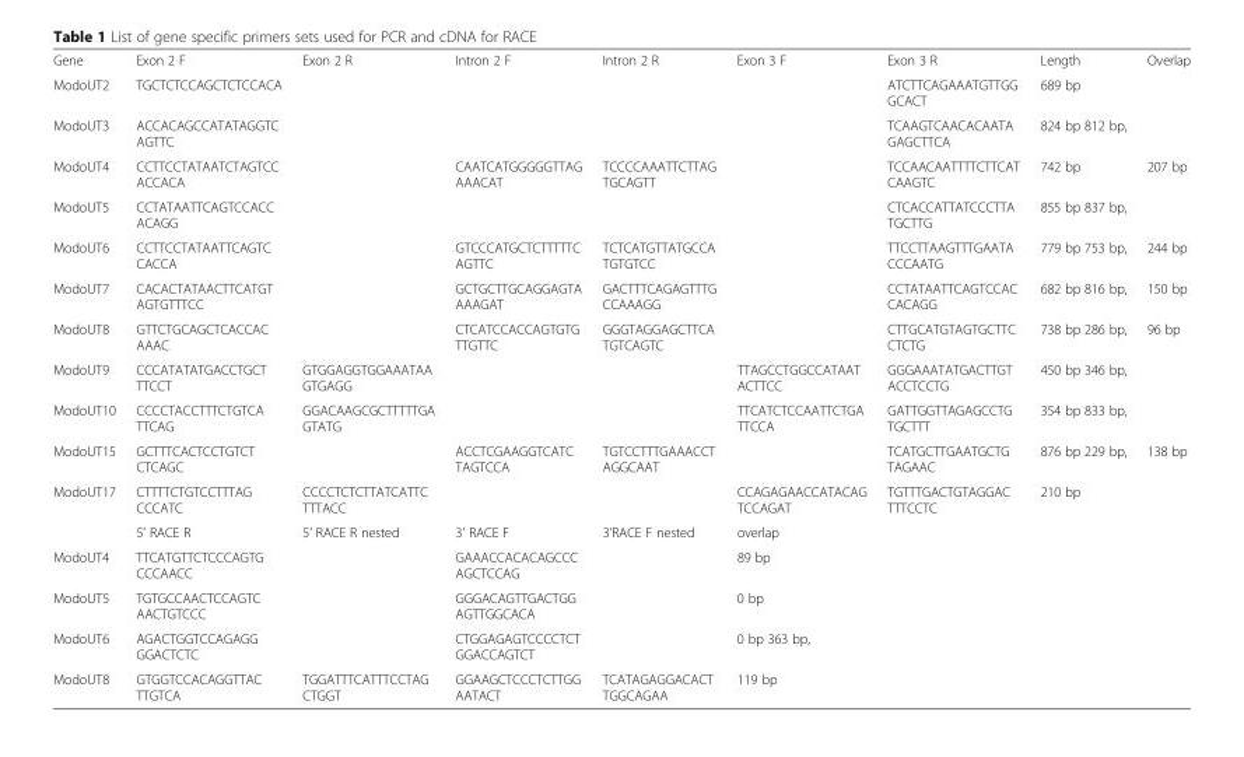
<table><tbody><tr><td>Gene</td><td>Exon 2 F</td><td>Exon 2 R</td><td>Intron 2 F</td><td>Intron 2 R</td><td>Exon 3 F</td><td>Exon 3 R</td><td>Length</td><td>Overlap</td></tr><tr><td>ModoUT2</td><td>TGCTCTCCAGCTCTCCACA</td><td></td><td></td><td></td><td></td><td>ATCTTCAGAAATGTTGG GCACT</td><td>689 bp</td><td></td></tr><tr><td>ModoUT3</td><td>ACCACAGCCATATAGGTC AGTTC</td><td></td><td></td><td></td><td></td><td>TCAAGTCAACACAATA GAGCTTCA</td><td>824 bp 812 bp,</td><td></td></tr><tr><td>ModoUT4</td><td>CCTTCCTATAATCTAGTCC ACCACA</td><td></td><td>CAATCATGGGGGTTAG AAACAT</td><td>TCCCCAAATTCTTAG TGCAGTT</td><td></td><td>TCCAACAATTTTCTTCAT CAAGTC</td><td>742 bp</td><td>207 bp</td></tr><tr><td>ModoUT5</td><td>CCTATAATTCAGTCCACC ACAGG</td><td></td><td></td><td></td><td></td><td>CTCACCATTATCCCTTA TGCTTG</td><td>855 bp 837 bp,</td><td></td></tr><tr><td>ModoUT6</td><td>CCTTCCTATAATTCAGTC CACCA</td><td></td><td>GTCCCATGCTCTTTTTC AGTTC</td><td>TCTCATGTTATGCCA TGTGTCC</td><td></td><td>TTCCTTAAGTTTGAATA CCCAATG</td><td>779 bp 753 bp,</td><td>244 bp</td></tr><tr><td>ModoUT7</td><td>CACACTATAACTTCATGT AGTGTTTCC</td><td></td><td>GCTGCTTGCAGGAGTA AAAGAT</td><td>GACTTTCAGAGTTTG CCAAAGG</td><td></td><td>CCTATAATTCAGTCCAC CACAGG</td><td>682 bp 816 bp,</td><td>150 bp</td></tr><tr><td>ModoUT8</td><td>GTTCTGCAGCTCACCAC AAAC</td><td></td><td>CTCATCCACCAGTGTG TTGTTC</td><td>GGGTAGGAGCTTCA TGTCAGTC</td><td></td><td>CTTGCATGTAGTGCTTC CTCTG</td><td>738 bp 286 bp,</td><td>96 bp</td></tr><tr><td>ModoUT9</td><td>CCCATATATGACCTGCT TTCCT</td><td>GTGGAGGTGGAAATAA GTGAGG</td><td></td><td></td><td>TTAGCCTGGCCATAAT ACTTCC</td><td>GGGAAATATGACTTGT ACCTCCTG</td><td>450 bp 346 bp,</td><td></td></tr><tr><td>ModoUT10</td><td>CCCCTACCTTTCTGTCA TTCAG</td><td>GGACAAGCGCTTTTTGA GTATG</td><td></td><td></td><td>TTCATCTCCAATTCTGA TTCCA</td><td>GATTGGTTAGAGCCTG TGCTTT</td><td>354 bp 833 bp,</td><td></td></tr><tr><td>ModoUT15</td><td>GCTTTCACTCCTGTCT CTCAGC</td><td></td><td>ACCTCGAAGGTCATC TAGTCCA</td><td>TGTCCTTTGAAACCT AGGCAAT</td><td></td><td>TCATGCTTGAATGCTG TAGAAC</td><td>876 bp 229 bp,</td><td>138 bp</td></tr><tr><td rowspan="2">ModoUT17</td><td>CTTTTCTGTCCTTTAG CCCATC</td><td>CCCCTCTCTTATCATTC TTTACC</td><td></td><td></td><td>CCAGAGAACCATACAG TCCAGAT</td><td>TGTTTGACTGTAGGAC TTTCCTC</td><td>210 bp</td><td></td></tr><tr><td>5’ RACE R</td><td>5’ RACE R nested</td><td>3’ RACE F</td><td>3’RACE F nested</td><td>overlap</td><td></td><td></td><td></td></tr><tr><td>ModoUT4</td><td>TTCATGTTCTCCCAGTG CCCAACC</td><td></td><td>GAAACCACACAGCCC AGCTCCAG</td><td></td><td>89 bp</td><td></td><td></td><td></td></tr><tr><td>ModoUT5</td><td>TGTGCCAACTCCAGTC AACTGTCCC</td><td></td><td>GGGACAGTTGACTGG AGTTGGCACA</td><td></td><td>0 bp</td><td></td><td></td><td></td></tr><tr><td>ModoUT6</td><td>AGACTGGTCCAGAGG GGACTCTC</td><td></td><td>CTGGAGAGTCCCCTCT GGACCAGTCT</td><td></td><td>0 bp 363 bp,</td><td></td><td></td><td></td></tr><tr><td>ModoUT8</td><td>GTGGTCCACAGGTTAC TTGTCA</td><td>TGGATTTCATTTCCTAG CTGGT</td><td>GGAAGCTCCCTCTTGG AATACT</td><td>TCATAGAGGACACT TGGCAGAA</td><td>119 bp</td><td></td><td></td><td></td></tr></tbody></table>